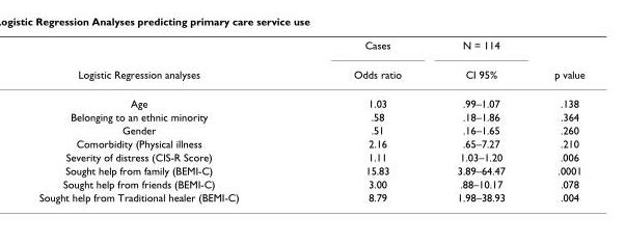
<table><thead><tr><td rowspan="2">Logistic Regression analyses</td><td rowspan="2">Cases Odds ratio</td><td rowspan="2">N = 114 CI 95%</td><td rowspan="2">p value</td></tr><tr></tr></thead><tbody><tr><td>Age</td><td>1.03</td><td>.99–1.07</td><td>.138</td></tr><tr><td>Belonging to an ethnic minority</td><td>.58</td><td>.18–1.86</td><td>.364</td></tr><tr><td>Gender</td><td>.51</td><td>.16–1.65</td><td>.260</td></tr><tr><td>Comorbidity (Physical illness</td><td>2.16</td><td>.65–7.27</td><td>.210</td></tr><tr><td>Severity of distress (CIS-R Score)</td><td>1.11</td><td>1.03–1.20</td><td>.006</td></tr><tr><td>Sought help from family (BEMI-C)</td><td>15.83</td><td>3.89–64.47</td><td>.0001</td></tr><tr><td>Sought help from friends (BEMI-C)</td><td>3.00</td><td>.88–10.17</td><td>.078</td></tr><tr><td>Sought help from Traditional healer (BEMI-C)</td><td>8.79</td><td>1.98–38.93</td><td>.004</td></tr></tbody></table>